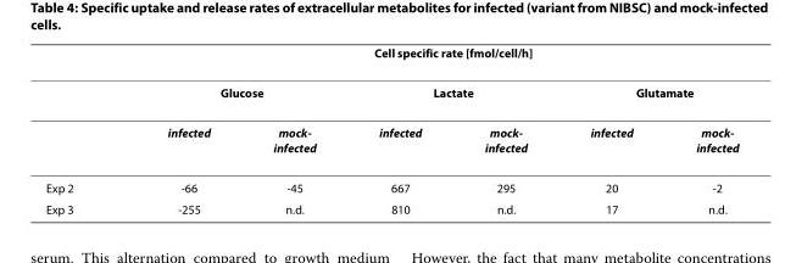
<table><thead><tr><td rowspan="3"></td><td colspan="6">Cell specific rate [fmol/cell/h]</td></tr><tr><td colspan="2">Glucose</td><td colspan="2">Lactate</td><td colspan="2">Glutamate</td></tr><tr><td>infected</td><td>mock- infected</td><td>infected</td><td>mock- infected</td><td>infected</td><td>mock- infected</td></tr></thead><tbody><tr><td>Exp 2</td><td>-66</td><td>-45</td><td>667</td><td>295</td><td>20</td><td>-2</td></tr><tr><td>Exp 3</td><td>-255</td><td>n.d.</td><td>810</td><td>n.d.</td><td>17</td><td>n.d.</td></tr></tbody></table>